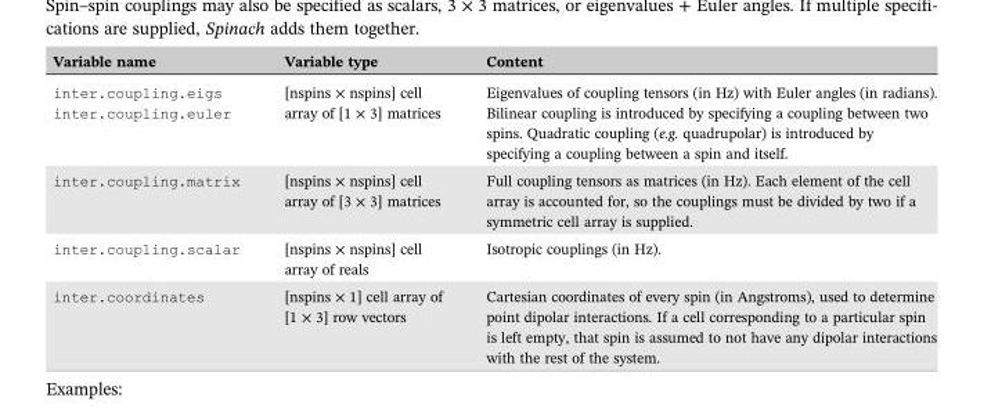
<table><thead><tr><td>Variable name</td><td>Variable type</td><td>Content</td></tr></thead><tbody><tr><td>inter.coupling.eigs inter.coupling.euler</td><td>[nspins × nspins] cell array of [1 × 3] matrices</td><td>Eigenvalues of coupling tensors (in Hz) with Euler angles (in radians). Bilinear coupling is introduced by specifying a coupling between two spins. Quadratic coupling (e.g. quadrupolar) is introduced by specifying a coupling between a spin and itself.</td></tr><tr><td>inter.coupling.matrix</td><td>[nspins × nspins] cell array of [3 × 3] matrices</td><td>Full coupling tensors as matrices (in Hz). Each element of the cell array is accounted for, so the couplings must be divided by two if a symmetric cell array is supplied.</td></tr><tr><td>inter.coupling.scalar</td><td>[nspins × nspins] cell array of reals</td><td>Isotropic couplings (in Hz).</td></tr><tr><td>inter.coordinates</td><td>[nspins × 1] cell array of [1 × 3] row vectors</td><td>Cartesian coordinates of every spin (in Angstroms), used to determine point dipolar interactions. If a cell corresponding to a particular spin is left empty, that spin is assumed to not have any dipolar interactions with the rest of the system.</td></tr></tbody></table>